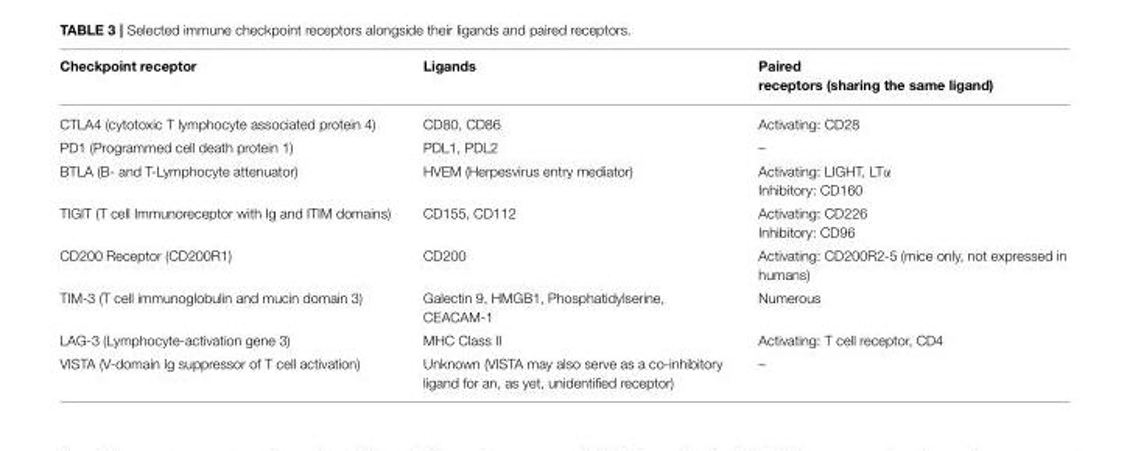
<table><thead><tr><td>Checkpoint receptor</td><td>Ligands</td><td>Paired receptors (sharing the same ligand)</td></tr></thead><tbody><tr><td>CTLA4 (cytotoxic T lymphocyte associated protein 4)</td><td>CD80, CD86</td><td>Activating: CD28</td></tr><tr><td>PD1 (Programmed cell death protein 1)</td><td>PDL1, PDL2</td><td>–</td></tr><tr><td>BTLA (B- and T-Lymphocyte attenuator)</td><td>HVEM (Herpesvirus entry mediator)</td><td>Activating: LIGHT, LTα Inhibitory: CD160</td></tr><tr><td>TIGIT (T cell Immunoreceptor with Ig and ITIM domains)</td><td>CD155, CD112</td><td>Activating: CD226 Inhibitory: CD96</td></tr><tr><td>CD200 Receptor (CD200R1)</td><td>CD200</td><td>Activating: CD200R2-5 (mice only, not expressed in humans)</td></tr><tr><td>TIM-3 (T cell immunoglobulin and mucin domain 3)</td><td>Galectin 9, HMGB1, Phosphatidylserine, CEACAM-1</td><td>Numerous</td></tr><tr><td>LAG-3 (Lymphocyte-activation gene 3)</td><td>MHC Class II</td><td>Activating: T cell receptor, CD4</td></tr><tr><td>VISTA (V-domain Ig suppressor of T cell activation)</td><td>Unknown (VISTA may also serve as a co-inhibitory ligand for an, as yet, unidentified receptor)</td><td>–</td></tr></tbody></table>